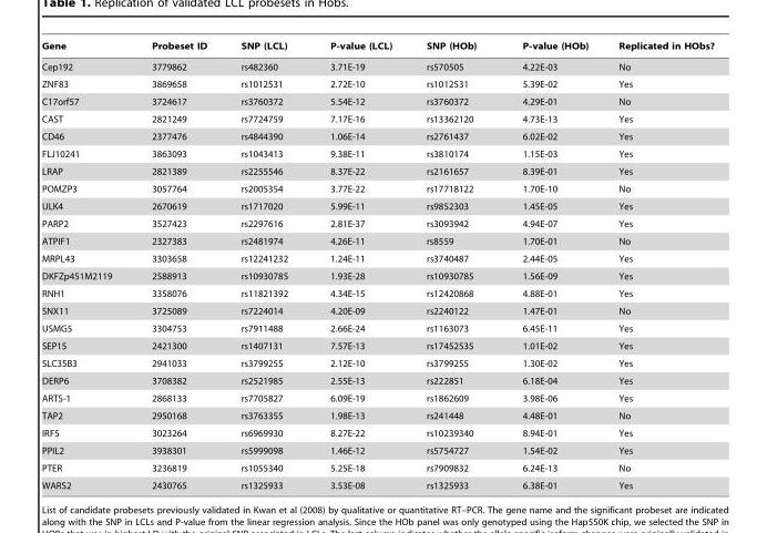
<table><thead><tr><td>Gene</td><td>Probeset ID</td><td>SNP (LCL)</td><td>P-value (LCL)</td><td>SNP (HOb)</td><td>P-value (HOb)</td><td>Replicated in HObs?</td></tr></thead><tbody><tr><td>Cep192</td><td>3779862</td><td>rs482360</td><td>3.71E-19</td><td>rs570505</td><td>4.22E-03</td><td>No</td></tr><tr><td>ZNF83</td><td>3869658</td><td>rs1012531</td><td>2.72E-10</td><td>rs1012531</td><td>5.39E-02</td><td>Yes</td></tr><tr><td>C17orf57</td><td>3724617</td><td>rs3760372</td><td>5.54E-12</td><td>rs3760372</td><td>4.29E-01</td><td>No</td></tr><tr><td>CAST</td><td>2821249</td><td>rs7724759</td><td>7.17E-16</td><td>rs13362120</td><td>4.73E-13</td><td>Yes</td></tr><tr><td>CD46</td><td>2377476</td><td>rs4844390</td><td>1.06E-14</td><td>rs2761437</td><td>6.02E-02</td><td>Yes</td></tr><tr><td>FLJ10241</td><td>3863093</td><td>rs1043413</td><td>9.38E-11</td><td>rs3810174</td><td>1.15E-03</td><td>Yes</td></tr><tr><td>LRAP</td><td>2821389</td><td>rs2255546</td><td>8.37E-22</td><td>rs2161657</td><td>8.39E-01</td><td>Yes</td></tr><tr><td>POMZP3</td><td>3057764</td><td>rs2005354</td><td>3.77E-22</td><td>rs17718122</td><td>1.70E-10</td><td>No</td></tr><tr><td>ULK4</td><td>2670619</td><td>rs1717020</td><td>5.99E-11</td><td>rs9852303</td><td>1.45E-05</td><td>Yes</td></tr><tr><td>PARP2</td><td>3527423</td><td>rs2297616</td><td>2.81E-37</td><td>rs3093942</td><td>4.94E-07</td><td>Yes</td></tr><tr><td>ATPIF1</td><td>2327383</td><td>rs2481974</td><td>4.26E-11</td><td>rs8559</td><td>1.70E-01</td><td>No</td></tr><tr><td>MRPL43</td><td>3303658</td><td>rs12241232</td><td>1.24E-11</td><td>rs3740487</td><td>2.44E-05</td><td>Yes</td></tr><tr><td>DKFZp451M2119</td><td>2588913</td><td>rs10930785</td><td>1.93E-28</td><td>rs10930785</td><td>1.56E-09</td><td>Yes</td></tr><tr><td>RNH1</td><td>3358076</td><td>rs11821392</td><td>4.34E-15</td><td>rs12420868</td><td>4.88E-01</td><td>Yes</td></tr><tr><td>SNX11</td><td>3725089</td><td>rs7224014</td><td>4.20E-09</td><td>rs2240122</td><td>1.47E-01</td><td>No</td></tr><tr><td>USMG5</td><td>3304753</td><td>rs7911488</td><td>2.66E-24</td><td>rs1163073</td><td>6.45E-11</td><td>Yes</td></tr><tr><td>SEP15</td><td>2421300</td><td>rs1407131</td><td>7.57E-13</td><td>rs17452535</td><td>1.01E-02</td><td>Yes</td></tr><tr><td>SLC35B3</td><td>2941033</td><td>rs3799255</td><td>2.12E-10</td><td>rs3799255</td><td>1.30E-02</td><td>Yes</td></tr><tr><td>DERP6</td><td>3708382</td><td>rs2521985</td><td>2.55E-13</td><td>rs222851</td><td>6.18E-04</td><td>Yes</td></tr><tr><td>ARTS-1</td><td>2868133</td><td>rs7705827</td><td>6.09E-19</td><td>rs1862609</td><td>3.98E-06</td><td>Yes</td></tr><tr><td>TAP2</td><td>2950168</td><td>rs3763355</td><td>1.98E-13</td><td>rs241448</td><td>4.48E-01</td><td>No</td></tr><tr><td>IRF5</td><td>3023264</td><td>rs6969930</td><td>8.27E-22</td><td>rs10239340</td><td>8.94E-01</td><td>Yes</td></tr><tr><td>PPIL2</td><td>3938301</td><td>rs5999098</td><td>1.46E-12</td><td>rs5754727</td><td>1.54E-02</td><td>Yes</td></tr><tr><td>PTER</td><td>3236819</td><td>rs1055340</td><td>5.25E-18</td><td>rs7909832</td><td>6.24E-13</td><td>No</td></tr><tr><td>WARS2</td><td>2430765</td><td>rs1325933</td><td>3.53E-08</td><td>rs1325933</td><td>6.38E-01</td><td>Yes</td></tr></tbody></table>